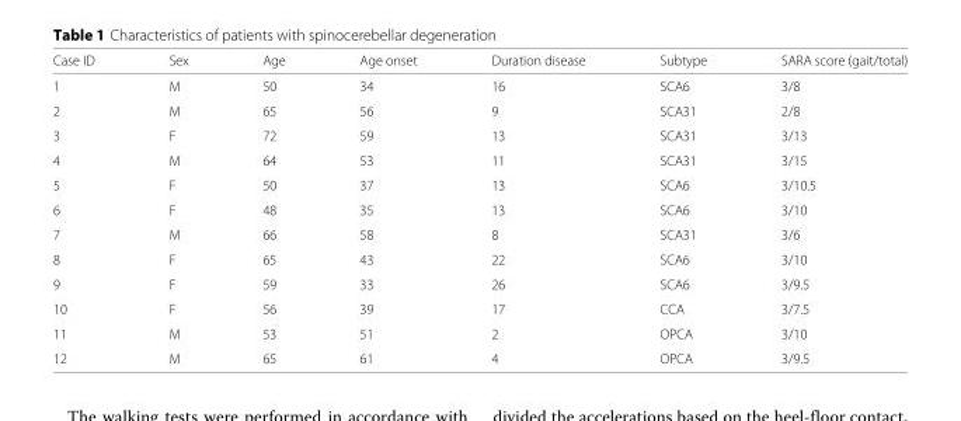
<table><thead><tr><td>Case ID</td><td>Sex</td><td>Age</td><td>Age onset</td><td>Duration disease</td><td>Subtype</td><td>SARA score (gait/total)</td></tr></thead><tbody><tr><td>1</td><td>M</td><td>50</td><td>34</td><td>16</td><td>SCA6</td><td>3/8</td></tr><tr><td>2</td><td>M</td><td>65</td><td>56</td><td>9</td><td>SCA31</td><td>2/8</td></tr><tr><td>3</td><td>F</td><td>72</td><td>59</td><td>13</td><td>SCA31</td><td>3/13</td></tr><tr><td>4</td><td>M</td><td>64</td><td>53</td><td>11</td><td>SCA31</td><td>3/15</td></tr><tr><td>5</td><td>F</td><td>50</td><td>37</td><td>13</td><td>SCA6</td><td>3/10.5</td></tr><tr><td>6</td><td>F</td><td>48</td><td>35</td><td>13</td><td>SCA6</td><td>3/10</td></tr><tr><td>7</td><td>M</td><td>66</td><td>58</td><td>8</td><td>SCA31</td><td>3/6</td></tr><tr><td>8</td><td>F</td><td>65</td><td>43</td><td>22</td><td>SCA6</td><td>3/10</td></tr><tr><td>9</td><td>F</td><td>59</td><td>33</td><td>26</td><td>SCA6</td><td>3/9.5</td></tr><tr><td>10</td><td>F</td><td>56</td><td>39</td><td>17</td><td>CCA</td><td>3/7.5</td></tr><tr><td>11</td><td>M</td><td>53</td><td>51</td><td>2</td><td>OPCA</td><td>3/10</td></tr><tr><td>12</td><td>M</td><td>65</td><td>61</td><td>4</td><td>OPCA</td><td>3/9.5</td></tr></tbody></table>